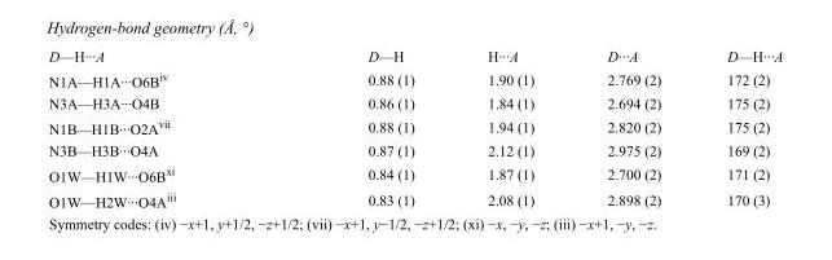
<table><tbody><tr><td>D—H···A</td><td>D—H</td><td>H···A</td><td>D···A</td><td>D—H···A</td></tr><tr><td>N1A—H1A···O6B<sup>iv</sup></td><td>0.88 (1)</td><td>1.90 (1)</td><td>2.769 (2)</td><td>172 (2)</td></tr><tr><td>N3A—H3A···O4B</td><td>0.86 (1)</td><td>1.84 (1)</td><td>2.694 (2)</td><td>175 (2)</td></tr><tr><td>N1B—H1B···O2A<sup>vii</sup></td><td>0.88 (1)</td><td>1.94 (1)</td><td>2.820 (2)</td><td>175 (2)</td></tr><tr><td>N3B—H3B···O4A</td><td>0.87 (1)</td><td>2.12 (1)</td><td>2.975 (2)</td><td>169 (2)</td></tr><tr><td>O1W—H1W···O6B<sup>xi</sup></td><td>0.84 (1)</td><td>1.87 (1)</td><td>2.700 (2)</td><td>171 (2)</td></tr><tr><td>O1W—H2W···O4A<sup>iii</sup></td><td>0.83 (1)</td><td>2.08 (1)</td><td>2.898 (2)</td><td>170 (3)</td></tr></tbody></table>